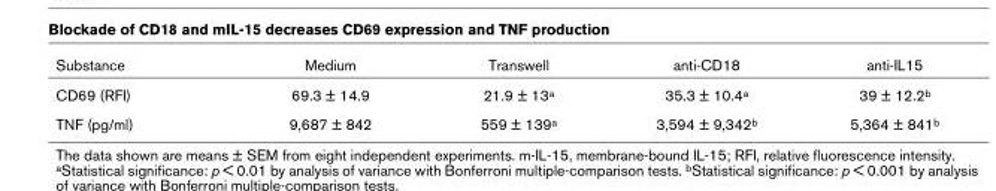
<table><thead><tr><td>Substance</td><td>Medium</td><td>Transwell</td><td>anti-CD18</td><td>anti-IL15</td></tr></thead><tbody><tr><td>CD69 (RFI)</td><td>69.3 ± 14.9</td><td>21.9 ± 13a</td><td>35.3 ± 10.4a</td><td>39 ± 12.2b</td></tr><tr><td>TNF (pg/ml)</td><td>9,687 ± 842</td><td>559 ± 139a</td><td>3,594 ± 9,342b</td><td>5,364 ± 841b</td></tr></tbody></table>